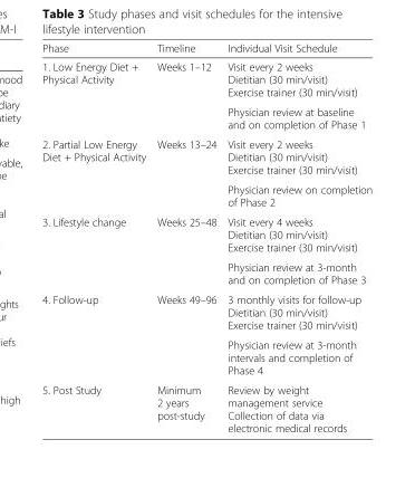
<table><thead><tr><td>Phase</td><td>Timeline</td><td>Individual Visit Schedule</td></tr></thead><tbody><tr><td rowspan="2">1. Low Energy Diet + Physical Activity</td><td rowspan="2">Weeks 1–12</td><td>Visit every 2 weeks Dietitian (30 min/visit) Exercise trainer (30 min/visit)</td></tr><tr><td>Physician review at baseline and on completion of Phase 1</td></tr><tr><td rowspan="2">2. Partial Low Energy Diet + Physical Activity</td><td rowspan="2">Weeks 13–24</td><td>Visit every 2 weeks Dietitian (30 min/visit) Exercise trainer (30 min/visit)</td></tr><tr><td>Physician review on completion of Phase 2</td></tr><tr><td rowspan="2">3. Lifestyle change</td><td rowspan="2">Weeks 25–48</td><td>Visit every 4 weeks Dietitian (30 min/visit) Exercise trainer (30 min/visit)</td></tr><tr><td>Physician review at 3-month and on completion of Phase 3</td></tr><tr><td rowspan="2">4. Follow-up</td><td rowspan="2">Weeks 49–96</td><td>3 monthly visits for follow-up Dietitian (30 min/visit) Exercise trainer (30 min/visit)</td></tr><tr><td>Physician review at 3-month intervals and completion of Phase 4</td></tr><tr><td>5. Post Study</td><td>Minimum 2 years post-study</td><td>Review by weight management service Collection of data via electronic medical records</td></tr></tbody></table>